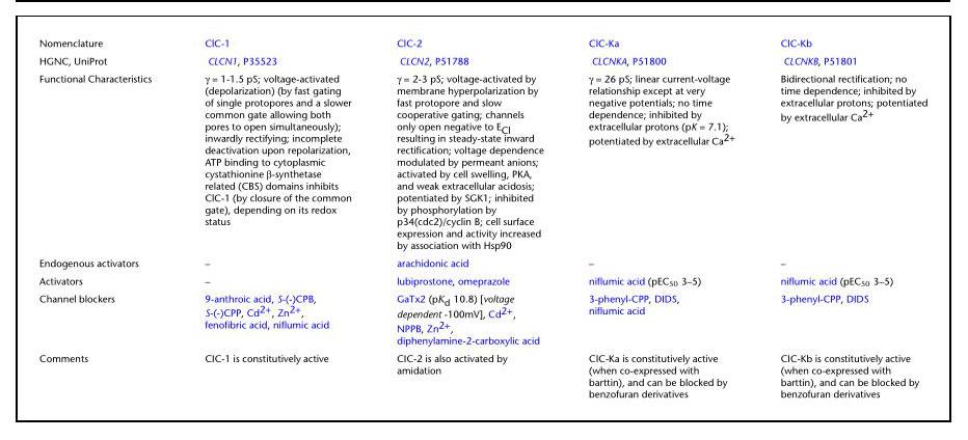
<table><tbody><tr><td>Nomenclature</td><td>ClC-1</td><td>ClC-2</td><td>ClC-Ka</td><td>ClC-Kb</td></tr><tr><td>HGNC, UniProt</td><td>CLCN1, P35523</td><td>CLCN2, P51788</td><td>CLCNKA, P51800</td><td>CLCNKB, P51801</td></tr><tr><td>Functional Characteristics</td><td>γ = 1-1.5 pS; voltage-activated (depolarization) (by fast gating of single protopores and a slower common gate allowing both pores to open simultaneously); inwardly rectifying; incomplete deactivation upon repolarization, ATP binding to cytoplasmic cystathionine β-synthetase related (CBS) domains inhibits ClC-1 (by closure of the common gate), depending on its redox status</td><td>γ = 2-3 pS; voltage-activated by membrane hyperpolarization by fast protopore and slow cooperative gating; channels only open negative to E<sub>Cl</sub> resulting in steady-state inward rectification; voltage dependence modulated by permeant anions; activated by cell swelling, PKA, and weak extracellular acidosis; potentiated by SGK1; inhibited by phosphorylation by p34(cdc2)/cyclin B; cell surface expression and activity increased by association with Hsp90</td><td>γ = 26 pS; linear current-voltage relationship except at very negative potentials; no time dependence; inhibited by extracellular protons (pK = 7.1); potentiated by extracellular Ca<sup>2+</sup></td><td>Bidirectional rectification; no time dependence; inhibited by extracellular protons; potentiated by extracellular Ca<sup>2+</sup></td></tr><tr><td>Endogenous activators</td><td>–</td><td>arachidonic acid</td><td>–</td><td>–</td></tr><tr><td>Activators</td><td>–</td><td>lubiprostone, omeprazole</td><td>niflumic acid (pEC<sub>50</sub> 3–5)</td><td>niflumic acid (pEC<sub>50</sub> 3–5)</td></tr><tr><td>Channel blockers</td><td>9-anthroic acid, S-(-)CPB, S-(-)CPP, Cd<sup>2+</sup>, Zn<sup>2+</sup>, fenofibric acid, niflumic acid</td><td>GaTx2 (pK<sub>d</sub> 10.8) [voltage dependent -100mV], Cd<sup>2+</sup>, NPPB, Zn<sup>2+</sup>, diphenylamine-2-carboxylic acid</td><td>3-phenyl-CPP, DIDS, niflumic acid</td><td>3-phenyl-CPP, DIDS</td></tr><tr><td>Comments</td><td>CIC-1 is constitutively active</td><td>CIC-2 is also activated by amidation</td><td>CIC-Ka is constitutively active (when co-expressed with barttin), and can be blocked by benzofuran derivatives</td><td>CIC-Kb is constitutively active (when co-expressed with barttin), and can be blocked by benzofuran derivatives</td></tr></tbody></table>